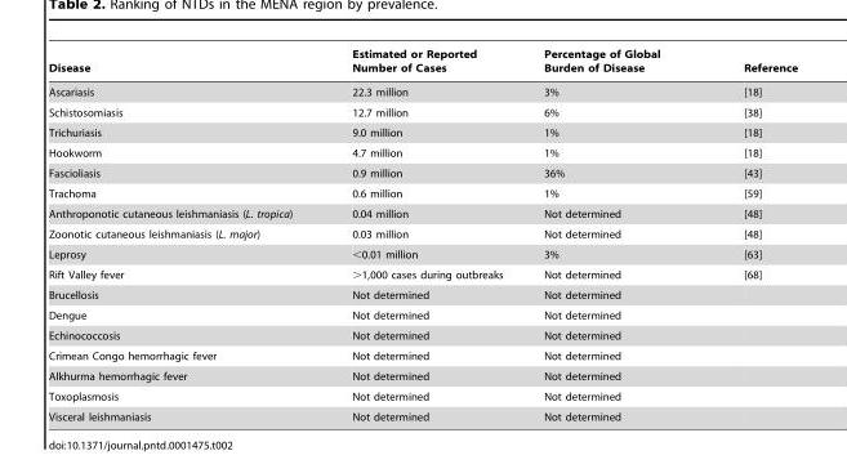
<table><thead><tr><td>Disease</td><td>Estimated or Reported Number of Cases</td><td>Percentage of Global Burden of Disease</td><td>Reference</td></tr></thead><tbody><tr><td>Ascariasis</td><td>22.3 million</td><td>3%</td><td>[18]</td></tr><tr><td>Schistosomiasis</td><td>12.7 million</td><td>6%</td><td>[38]</td></tr><tr><td>Trichuriasis</td><td>9.0 million</td><td>1%</td><td>[18]</td></tr><tr><td>Hookworm</td><td>4.7 million</td><td>1%</td><td>[18]</td></tr><tr><td>Fascioliasis</td><td>0.9 million</td><td>36%</td><td>[43]</td></tr><tr><td>Trachoma</td><td>0.6 million</td><td>1%</td><td>[59]</td></tr><tr><td>Anthroponotic cutaneous leishmaniasis (L. tropica)</td><td>0.04 million</td><td>Not determined</td><td>[48]</td></tr><tr><td>Zoonotic cutaneous leishmaniasis (L. major)</td><td>0.03 million</td><td>Not determined</td><td>[48]</td></tr><tr><td>Leprosy</td><td>&lt;0.01 million</td><td>3%</td><td>[63]</td></tr><tr><td>Rift Valley fever</td><td>&gt;1,000 cases during outbreaks</td><td>Not determined</td><td>[68]</td></tr><tr><td>Brucellosis</td><td>Not determined</td><td>Not determined</td><td></td></tr><tr><td>Dengue</td><td>Not determined</td><td>Not determined</td><td></td></tr><tr><td>Echinococcosis</td><td>Not determined</td><td>Not determined</td><td></td></tr><tr><td>Crimean Congo hemorrhagic fever</td><td>Not determined</td><td>Not determined</td><td></td></tr><tr><td>Alkhurma hemorrhagic fever</td><td>Not determined</td><td>Not determined</td><td></td></tr><tr><td>Toxoplasmosis</td><td>Not determined</td><td>Not determined</td><td></td></tr><tr><td>Visceral leishmaniasis</td><td>Not determined</td><td>Not determined</td><td></td></tr></tbody></table>